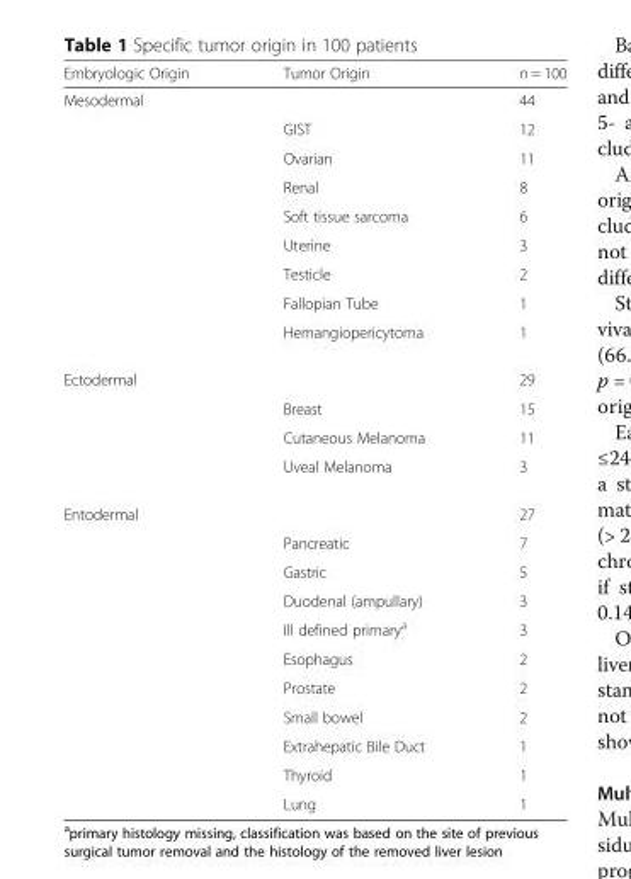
<table><thead><tr><td>Embryologic Origin</td><td>Tumor Origin</td><td>n = 100</td></tr></thead><tbody><tr><td rowspan="9">Mesodermal</td><td></td><td>44</td></tr><tr><td>GIST</td><td>12</td></tr><tr><td>Ovarian</td><td>11</td></tr><tr><td>Renal</td><td>8</td></tr><tr><td>Soft tissue sarcoma</td><td>6</td></tr><tr><td>Uterine</td><td>3</td></tr><tr><td>Testicle</td><td>2</td></tr><tr><td>Fallopian Tube</td><td>1</td></tr><tr><td>Hemangiopericytoma</td><td>1</td></tr><tr><td rowspan="4">Ectodermal</td><td></td><td>29</td></tr><tr><td>Breast</td><td>15</td></tr><tr><td>Cutaneous Melanoma</td><td>11</td></tr><tr><td>Uveal Melanoma</td><td>3</td></tr><tr><td rowspan="11">Entodermal</td><td></td><td>27</td></tr><tr><td>Pancreatic</td><td>7</td></tr><tr><td>Gastric</td><td>5</td></tr><tr><td>Duodenal (ampullary)</td><td>3</td></tr><tr><td>Ill defined primary<sup>a</sup></td><td>3</td></tr><tr><td>Esophagus</td><td>2</td></tr><tr><td>Prostate</td><td>2</td></tr><tr><td>Small bowel</td><td>2</td></tr><tr><td>Extrahepatic Bile Duct</td><td>1</td></tr><tr><td>Thyroid</td><td>1</td></tr><tr><td>Lung</td><td>1</td></tr></tbody></table>